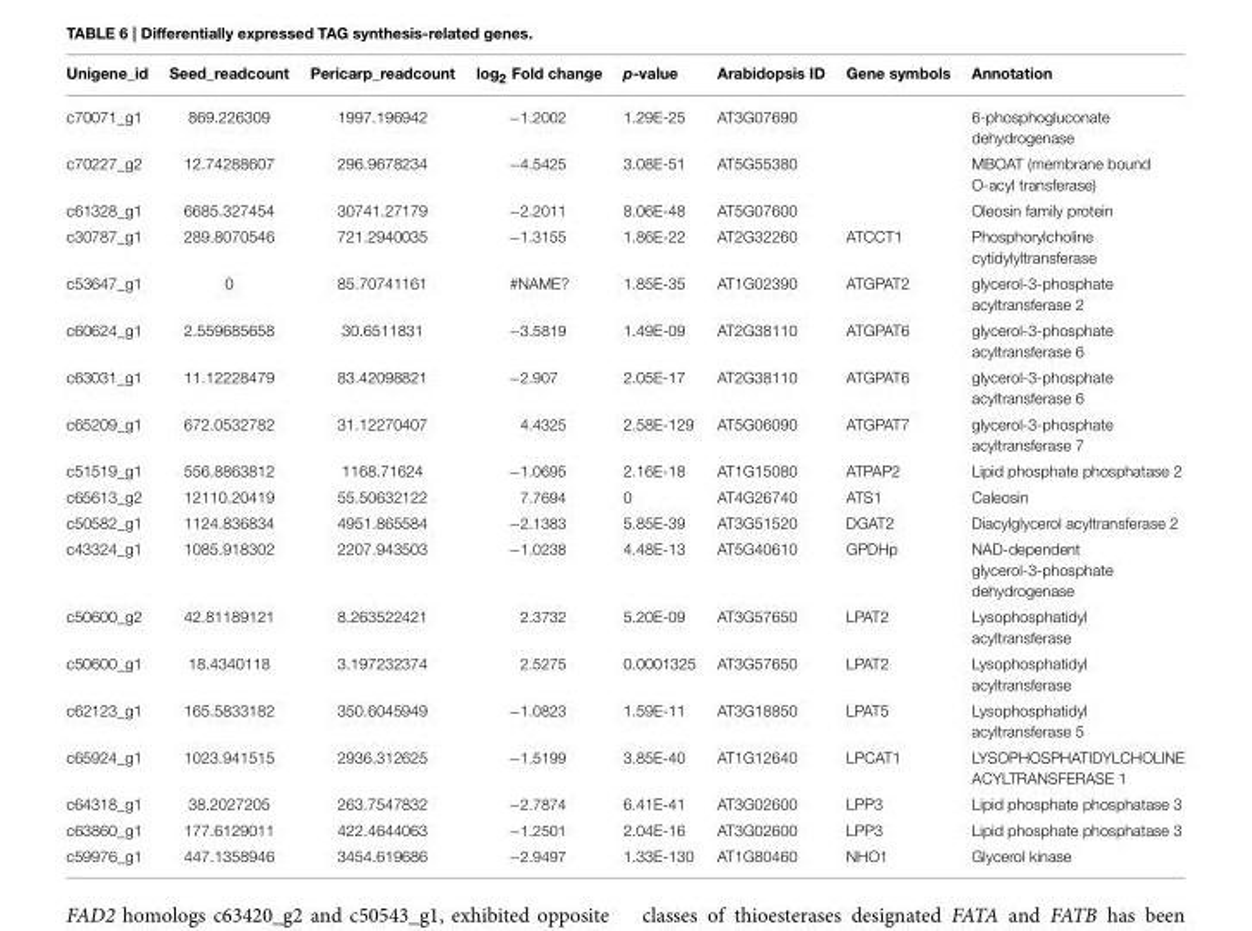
<table><thead><tr><td>Unigene_id</td><td>Seed_readcount</td><td>Pericarp_readcount</td><td>log<sub>2</sub> Fold change</td><td>p-value</td><td>Arabidopsis ID</td><td>Gene symbols</td><td>Annotation</td></tr></thead><tbody><tr><td>c70071_g1</td><td>869.226309</td><td>1997.196942</td><td>−1.2002</td><td>1.29E-25</td><td>AT3G07690</td><td></td><td>6-phosphogluconate dehydrogenase</td></tr><tr><td>c70227_g2</td><td>12.74288607</td><td>296.9678234</td><td>−4.5425</td><td>3.08E-51</td><td>AT5G55380</td><td></td><td>MBOAT (membrane bound O-acyl transferase)</td></tr><tr><td>c61328_g1</td><td>6685.327454</td><td>30741.27179</td><td>−2.2011</td><td>8.06E-48</td><td>AT5G07600</td><td></td><td>Oleosin family protein</td></tr><tr><td>c30787_g1</td><td>289.8070546</td><td>721.2940035</td><td>−1.3155</td><td>1.86E-22</td><td>AT2G32260</td><td>ATCCT1</td><td>Phosphorylcholine cytidylyltransferase</td></tr><tr><td>c53647_g1</td><td>0</td><td>85.70741161</td><td>#NAME?</td><td>1.85E-35</td><td>AT1G02390</td><td>ATGPAT2</td><td>glycerol-3-phosphate acyltransferase 2</td></tr><tr><td>c60624_g1</td><td>2.559685658</td><td>30.6511831</td><td>−3.5819</td><td>1.49E-09</td><td>AT2G38110</td><td>ATGPAT6</td><td>glycerol-3-phosphate acyltransferase 6</td></tr><tr><td>c63031_g1</td><td>11.12228479</td><td>83.42098821</td><td>−2.907</td><td>2.05E-17</td><td>AT2G38110</td><td>ATGPAT6</td><td>glycerol-3-phosphate acyltransferase 6</td></tr><tr><td>c65209_g1</td><td>672.0532782</td><td>31.12270407</td><td>4.4325</td><td>2.58E-129</td><td>AT5G06090</td><td>ATGPAT7</td><td>glycerol-3-phosphate acyltransferase 7</td></tr><tr><td>c51519_g1</td><td>556.8863812</td><td>1168.71624</td><td>−1.0695</td><td>2.16E-18</td><td>AT1G15080</td><td>ATPAP2</td><td>Lipid phosphate phosphatase 2</td></tr><tr><td>c65613_g2</td><td>12110.20419</td><td>55.50632122</td><td>7.7694</td><td>0</td><td>AT4G26740</td><td>ATS1</td><td>Caleosin</td></tr><tr><td>c50582_g1</td><td>1124.836834</td><td>4951.865584</td><td>−2.1383</td><td>5.85E-39</td><td>AT3G51520</td><td>DGAT2</td><td>Diacylglycerol acyltransferase 2</td></tr><tr><td>c43324_g1</td><td>1085.918302</td><td>2207.943503</td><td>−1.0238</td><td>4.48E-13</td><td>AT5G40610</td><td>GPDHp</td><td>NAD-dependent glycerol-3-phosphate dehydrogenase</td></tr><tr><td>c50600_g2</td><td>42.81189121</td><td>8.263522421</td><td>2.3732</td><td>5.20E-09</td><td>AT3G57650</td><td>LPAT2</td><td>Lysophosphatidyl acyltransferase</td></tr><tr><td>c50600_g1</td><td>18.4340118</td><td>3.197232374</td><td>2.5275</td><td>0.0001325</td><td>AT3G57650</td><td>LPAT2</td><td>Lysophosphatidyl acyltransferase</td></tr><tr><td>c62123_g1</td><td>165.5833182</td><td>350.6045949</td><td>−1.0823</td><td>1.59E-11</td><td>AT3G18850</td><td>LPAT5</td><td>Lysophosphatidyl acyltransferase 5</td></tr><tr><td>c65924_g1</td><td>1023.941515</td><td>2936.312625</td><td>−1.5199</td><td>3.85E-40</td><td>AT1G12640</td><td>LPCAT1</td><td>LYSOPHOSPHATIDYLCHOLINE ACYLTRANSFERASE 1</td></tr><tr><td>c64318_g1</td><td>38.2027205</td><td>263.7547832</td><td>−2.7874</td><td>6.41E-41</td><td>AT3G02600</td><td>LPP3</td><td>Lipid phosphate phosphatase 3</td></tr><tr><td>c63860_g1</td><td>177.6129011</td><td>422.4644063</td><td>−1.2501</td><td>2.04E-16</td><td>AT3G02600</td><td>LPP3</td><td>Lipid phosphate phosphatase 3</td></tr><tr><td>c59976_g1</td><td>447.1358946</td><td>3454.619686</td><td>−2.9497</td><td>1.33E-130</td><td>AT1G80460</td><td>NHO1</td><td>Glycerol kinase</td></tr></tbody></table>